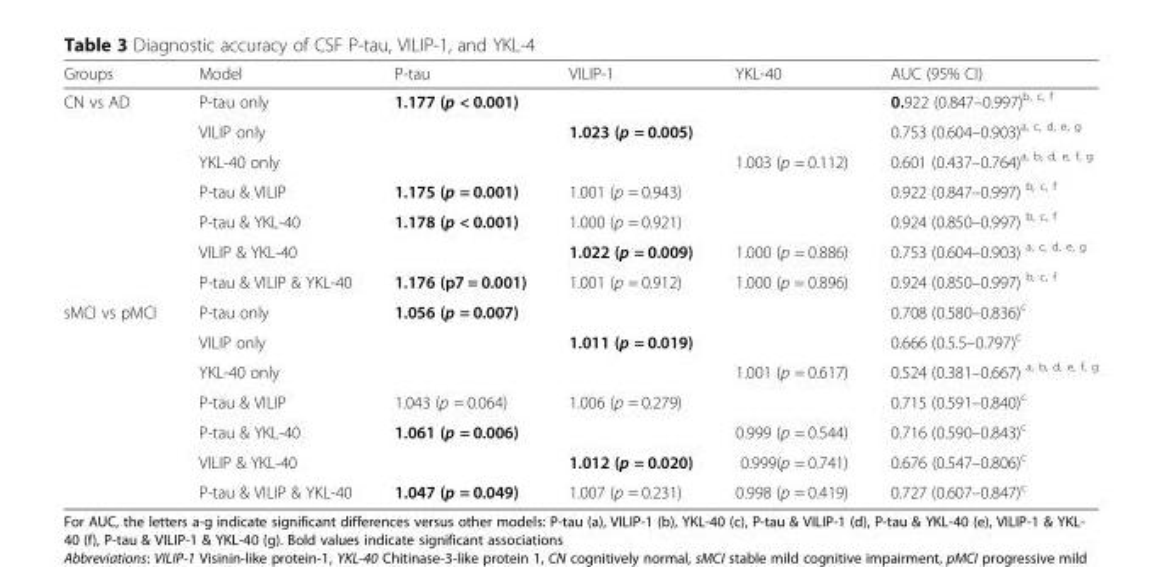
<table><thead><tr><td>Groups</td><td>Model</td><td>P-tau</td><td>VILIP-1</td><td>YKL-40</td><td>AUC (95% CI)</td></tr></thead><tbody><tr><td rowspan="7">CN vs AD</td><td>P-tau only</td><td>1.177 (p &lt; 0.001)</td><td></td><td></td><td>0.922 (0.847–0.997)<sup>b, c, f</sup></td></tr><tr><td>VILIP only</td><td></td><td>1.023 (p = 0.005)</td><td></td><td>0.753 (0.604–0.903)<sup>a, c, d, e, g</sup></td></tr><tr><td>YKL-40 only</td><td></td><td></td><td>1.003 (p = 0.112)</td><td>0.601 (0.437–0.764)<sup>a, b, d, e, f, g</sup></td></tr><tr><td>P-tau &amp; VILIP</td><td>1.175 (p = 0.001)</td><td>1.001 (p = 0.943)</td><td></td><td>0.922 (0.847–0.997) <sup>b, c, f</sup></td></tr><tr><td>P-tau &amp; YKL-40</td><td>1.178 (p &lt; 0.001)</td><td>1.000 (p = 0.921)</td><td></td><td>0.924 (0.850–0.997) <sup>b, c, f</sup></td></tr><tr><td>VILIP &amp; YKL-40</td><td></td><td>1.022 (p = 0.009)</td><td>1.000 (p = 0.886)</td><td>0.753 (0.604–0.903) <sup>a, c, d, e, g</sup></td></tr><tr><td>P-tau &amp; VILIP &amp; YKL-40</td><td>1.176 (p7 = 0.001)</td><td>1.001 (p = 0.912)</td><td>1.000 (p = 0.896)</td><td>0.924 (0.850–0.997) <sup>b, c, f</sup></td></tr><tr><td rowspan="7">sMCI vs pMCI</td><td>P-tau only</td><td>1.056 (p = 0.007)</td><td></td><td></td><td>0.708 (0.580–0.836)<sup>c</sup></td></tr><tr><td>VILIP only</td><td></td><td>1.011 (p = 0.019)</td><td></td><td>0.666 (0.5.5–0.797)<sup>c</sup></td></tr><tr><td>YKL-40 only</td><td></td><td></td><td>1.001 (p = 0.617)</td><td>0.524 (0.381–0.667) <sup>a, b, d, e, f, g</sup></td></tr><tr><td>P-tau &amp; VILIP</td><td>1.043 (p = 0.064)</td><td>1.006 (p = 0.279)</td><td></td><td>0.715 (0.591–0.840)<sup>c</sup></td></tr><tr><td>P-tau &amp; YKL-40</td><td>1.061 (p = 0.006)</td><td></td><td>0.999 (p = 0.544)</td><td>0.716 (0.590–0.843)<sup>c</sup></td></tr><tr><td>VILIP &amp; YKL-40</td><td></td><td>1.012 (p = 0.020)</td><td>0.999(p = 0.741)</td><td>0.676 (0.547–0.806)<sup>c</sup></td></tr><tr><td>P-tau &amp; VILIP &amp; YKL-40</td><td>1.047 (p = 0.049)</td><td>1.007 (p = 0.231)</td><td>0.998 (p = 0.419)</td><td>0.727 (0.607–0.847)<sup>c</sup></td></tr></tbody></table>